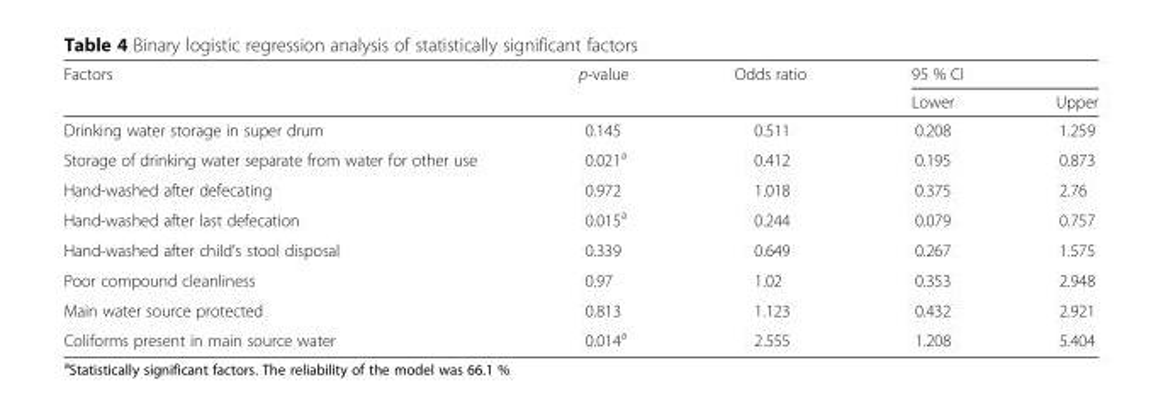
<table><thead><tr><td rowspan="2">Factors</td><td rowspan="2">p-value</td><td rowspan="2">Odds ratio</td><td colspan="2">95 % CI</td></tr><tr><td>Lower</td><td>Upper</td></tr></thead><tbody><tr><td>Drinking water storage in super drum</td><td>0.145</td><td>0.511</td><td>0.208</td><td>1.259</td></tr><tr><td>Storage of drinking water separate from water for other use</td><td>0.021<sup>a</sup></td><td>0.412</td><td>0.195</td><td>0.873</td></tr><tr><td>Hand-washed after defecating</td><td>0.972</td><td>1.018</td><td>0.375</td><td>2.76</td></tr><tr><td>Hand-washed after last defecation</td><td>0.015<sup>a</sup></td><td>0.244</td><td>0.079</td><td>0.757</td></tr><tr><td>Hand-washed after child’s stool disposal</td><td>0.339</td><td>0.649</td><td>0.267</td><td>1.575</td></tr><tr><td>Poor compound cleanliness</td><td>0.97</td><td>1.02</td><td>0.353</td><td>2.948</td></tr><tr><td>Main water source protected</td><td>0.813</td><td>1.123</td><td>0.432</td><td>2.921</td></tr><tr><td>Coliforms present in main source water</td><td>0.014<sup>a</sup></td><td>2.555</td><td>1.208</td><td>5.404</td></tr></tbody></table>